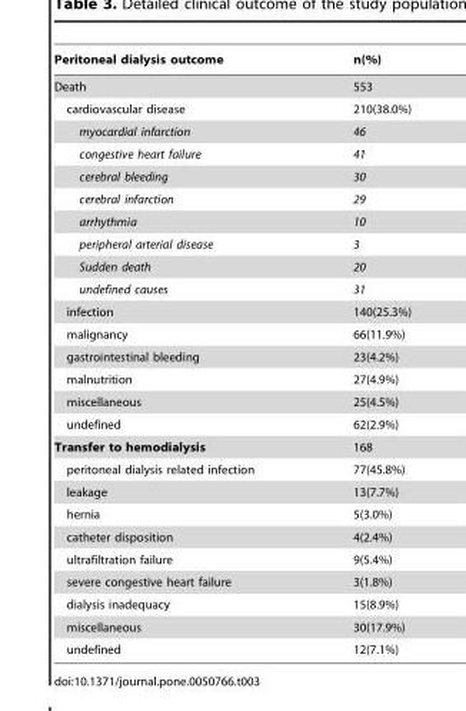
<table><thead><tr><td>Peritoneal dialysis outcome</td><td>n(%)</td></tr></thead><tbody><tr><td>Death</td><td>553</td></tr><tr><td>cardiovascular disease</td><td>210(38.0%)</td></tr><tr><td>myocardial infarction</td><td>46</td></tr><tr><td>congestive heart failure</td><td>41</td></tr><tr><td>cerebral bleeding</td><td>30</td></tr><tr><td>cerebral infarction</td><td>29</td></tr><tr><td>arrhythmia</td><td>10</td></tr><tr><td>peripheral arterial disease</td><td>3</td></tr><tr><td>Sudden death</td><td>20</td></tr><tr><td>undefined causes</td><td>31</td></tr><tr><td>infection</td><td>140(25.3%)</td></tr><tr><td>malignancy</td><td>66(11.9%)</td></tr><tr><td>gastrointestinal bleeding</td><td>23(4.2%)</td></tr><tr><td>malnutrition</td><td>27(4.9%)</td></tr><tr><td>miscellaneous</td><td>25(4.5%)</td></tr><tr><td>undefined</td><td>62(2.9%)</td></tr><tr><td>Transfer to hemodialysis</td><td>168</td></tr><tr><td>peritoneal dialysis related infection</td><td>77(45.8%)</td></tr><tr><td>leakage</td><td>13(7.7%)</td></tr><tr><td>hernia</td><td>5(3.0%)</td></tr><tr><td>catheter disposition</td><td>4(2.4%)</td></tr><tr><td>ultrafiltration failure</td><td>9(5.4%)</td></tr><tr><td>severe congestive heart failure</td><td>3(1.8%)</td></tr><tr><td>dialysis inadequacy</td><td>15(8.9%)</td></tr><tr><td>miscellaneous</td><td>30(17.9%)</td></tr><tr><td>undefined</td><td>12(7.1%)</td></tr></tbody></table>